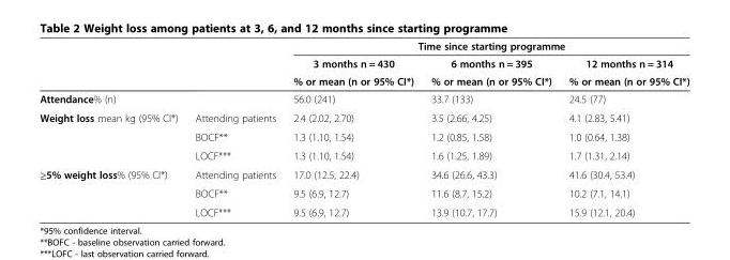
<table><thead><tr><td rowspan="3"></td><td rowspan="3"></td><td colspan="3">Time since starting programme</td></tr><tr><td rowspan="2">3 months n = 430 % or mean (n or 95% CI*)</td><td rowspan="2">6 months n = 395 % or mean (n or 95% CI*)</td><td rowspan="2">12 months n = 314 % or mean (n or 95% CI*)</td></tr><tr></tr></thead><tbody><tr><td>Attendance% (n)</td><td></td><td>56.0 (241)</td><td>33.7 (133)</td><td>24.5 (77)</td></tr><tr><td rowspan="3">Weight loss mean kg (95% CI*)</td><td>Attending patients</td><td>2.4 (2.02, 2.70)</td><td>3.5 (2.66, 4.25)</td><td>4.1 (2.83, 5.41)</td></tr><tr><td>BOCF**</td><td>1.3 (1.10, 1.54)</td><td>1.2 (0.85, 1.58)</td><td>1.0 (0.64, 1.38)</td></tr><tr><td>LOCF***</td><td>1.3 (1.10, 1.54)</td><td>1.6 (1.25, 1.89)</td><td>1.7 (1.31, 2.14)</td></tr><tr><td rowspan="3">≥5% weight loss% (95% CI*)</td><td>Attending patients</td><td>17.0 (12.5, 22.4)</td><td>34.6 (26.6, 43.3)</td><td>41.6 (30.4, 53.4)</td></tr><tr><td>BOCF**</td><td>9.5 (6.9, 12.7)</td><td>11.6 (8.7, 15.2)</td><td>10.2 (7.1, 14.1)</td></tr><tr><td>LOCF***</td><td>9.5 (6.9, 12.7)</td><td>13.9 (10.7, 17.7)</td><td>15.9 (12.1, 20.4)</td></tr></tbody></table>